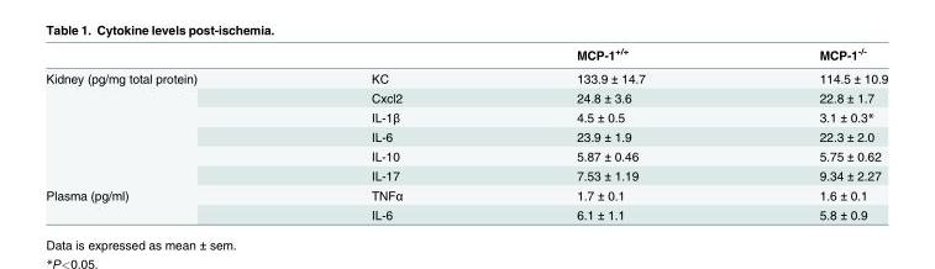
<table><thead><tr><td></td><td></td><td>MCP-1<sup>+/+</sup></td><td>MCP-1<sup>-/-</sup></td></tr></thead><tbody><tr><td rowspan="6">Kidney (pg/mg total protein)</td><td>KC</td><td>133.9 ± 14.7</td><td>114.5 ± 10.9</td></tr><tr><td>Cxcl2</td><td>24.8 ± 3.6</td><td>22.8 ± 1.7</td></tr><tr><td>IL-1β</td><td>4.5 ± 0.5</td><td>3.1 ± 0.3*</td></tr><tr><td>IL-6</td><td>23.9 ± 1.9</td><td>22.3 ± 2.0</td></tr><tr><td>IL-10</td><td>5.87 ± 0.46</td><td>5.75 ± 0.62</td></tr><tr><td>IL-17</td><td>7.53 ± 1.19</td><td>9.34 ± 2.27</td></tr><tr><td rowspan="2">Plasma (pg/ml)</td><td>TNFα</td><td>1.7 ± 0.1</td><td>1.6 ± 0.1</td></tr><tr><td>IL-6</td><td>6.1 ± 1.1</td><td>5.8 ± 0.9</td></tr></tbody></table>